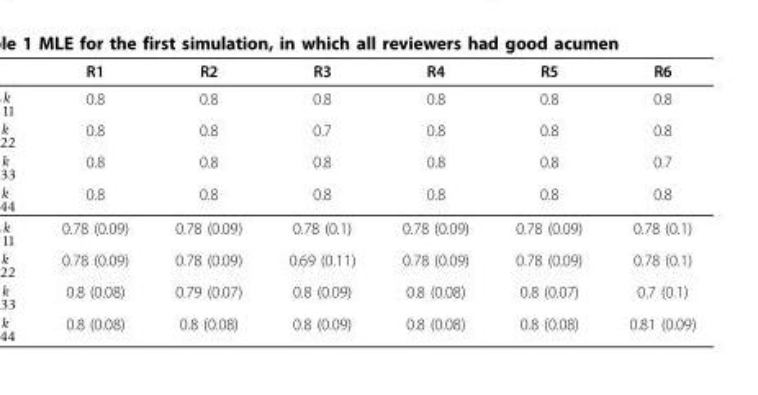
<table><thead><tr><td>R1</td><td>R2</td><td>R3</td><td>R4</td><td>R5</td><td>R6</td></tr></thead><tbody><tr><td>0.8</td><td>0.8</td><td>0.8</td><td>0.8</td><td>0.8</td><td>0.8</td></tr><tr><td>0.8</td><td>0.8</td><td>0.7</td><td>0.8</td><td>0.8</td><td>0.8</td></tr><tr><td>0.8</td><td>0.8</td><td>0.8</td><td>0.8</td><td>0.8</td><td>0.7</td></tr><tr><td>0.8</td><td>0.8</td><td>0.8</td><td>0.8</td><td>0.8</td><td>0.8</td></tr><tr><td>0.78 (0.09)</td><td>0.78 (0.09)</td><td>0.78 (0.1)</td><td>0.78 (0.09)</td><td>0.78 (0.09)</td><td>0.78 (0.1)</td></tr><tr><td>0.78 (0.09)</td><td>0.78 (0.09)</td><td>0.69 (0.11)</td><td>0.78 (0.09)</td><td>0.78 (0.09)</td><td>0.78 (0.1)</td></tr><tr><td>0.8 (0.08)</td><td>0.79 (0.07)</td><td>0.8 (0.09)</td><td>0.8 (0.08)</td><td>0.8 (0.07)</td><td>0.7 (0.1)</td></tr><tr><td>0.8 (0.08)</td><td>0.8 (0.08)</td><td>0.8 (0.09)</td><td>0.8 (0.08)</td><td>0.8 (0.08)</td><td>0.81 (0.09)</td></tr></tbody></table>